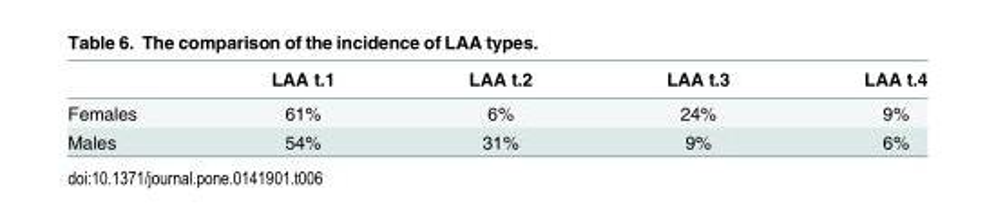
<table><thead><tr><td></td><td>LAA t.1</td><td>LAA t.2</td><td>LAA t.3</td><td>LAA t.4</td></tr></thead><tbody><tr><td>Females</td><td>61%</td><td>6%</td><td>24%</td><td>9%</td></tr><tr><td>Males</td><td>54%</td><td>31%</td><td>9%</td><td>6%</td></tr></tbody></table>